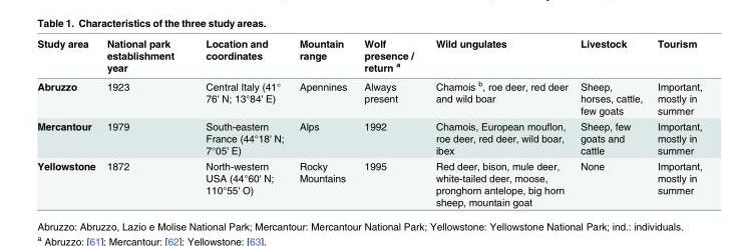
<table><thead><tr><td>Study area</td><td>National park establishment year</td><td>Location and coordinates</td><td>Mountain range</td><td>Wolf presence / return <sup>a</sup></td><td>Wild ungulates</td><td>Livestock</td><td>Tourism</td></tr></thead><tbody><tr><td>Abruzzo</td><td>1923</td><td>Central Italy (41° 76&#x27; N; 13°84&#x27; E)</td><td>Apennines</td><td>Always present</td><td>Chamois <sup>b</sup>, roe deer, red deer and wild boar</td><td>Sheep, horses, cattle, few goats</td><td>Important, mostly in summer</td></tr><tr><td>Mercantour</td><td>1979</td><td>South-eastern France (44°18&#x27; N; 7°05&#x27; E)</td><td>Alps</td><td>1992</td><td>Chamois, European mouflon, roe deer, red deer, wild boar, ibex</td><td>Sheep, few goats and cattle</td><td>Important, mostly in summer</td></tr><tr><td>Yellowstone</td><td>1872</td><td>North-western USA (44°60&#x27; N; 110°55&#x27; O)</td><td>Rocky Mountains</td><td>1995</td><td>Red deer, bison, mule deer, white-tailed deer, moose, pronghorn antelope, big horn sheep, mountain goat</td><td>None</td><td>Important, mostly in summer</td></tr></tbody></table>